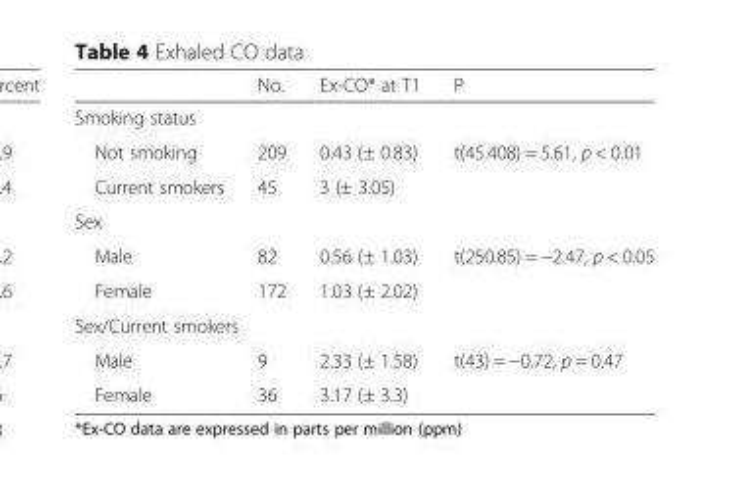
<table><thead><tr><td></td><td>No.</td><td>Ex-CO* at T1</td><td>P</td></tr></thead><tbody><tr><td colspan="4">Smoking status</td></tr><tr><td>Not smoking</td><td>209</td><td>0.43 (± 0.83)</td><td rowspan="2">t(45.408) = 5.61, p &lt; 0.01</td></tr><tr><td>Current smokers</td><td>45</td><td>3 (± 3.05)</td></tr><tr><td colspan="4">Sex</td></tr><tr><td>Male</td><td>82</td><td>0.56 (± 1.03)</td><td rowspan="2">t(250.85) = −2.47, p &lt; 0.05</td></tr><tr><td>Female</td><td>172</td><td>1.03 (± 2.02)</td></tr><tr><td colspan="4">Sex/Current smokers</td></tr><tr><td>Male</td><td>9</td><td>2.33 (± 1.58)</td><td rowspan="2">t(43) = −0.72, p = 0.47</td></tr><tr><td>Female</td><td>36</td><td>3.17 (± 3.3)</td></tr></tbody></table>